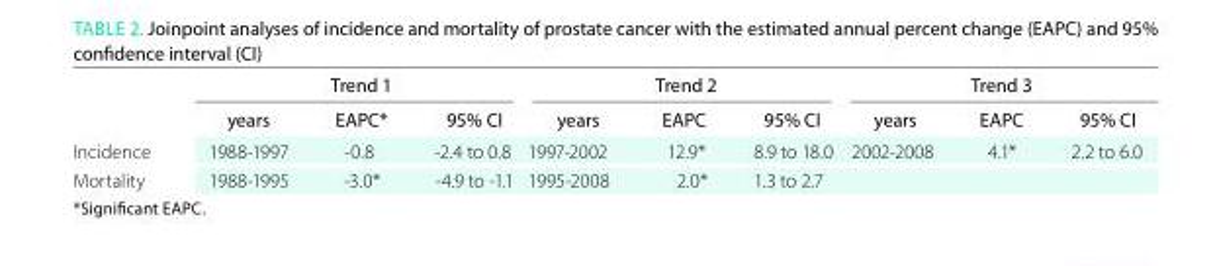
<table><thead><tr><td rowspan="2"></td><td colspan="3">Trend 1</td><td colspan="3">Trend 2</td><td colspan="3">Trend 3</td></tr><tr><td>years</td><td>eAPc*</td><td>95% cI</td><td>years</td><td>eAPc</td><td>95% cI</td><td>years</td><td>eAPc</td><td>95% cI</td></tr></thead><tbody><tr><td>Incidence</td><td>1988-1997</td><td>-0.8</td><td>-2.4 to 0.8</td><td>1997-2002</td><td>12.9*</td><td>8.9 to 18.0</td><td>2002-2008</td><td>4.1*</td><td>2.2 to 6.0</td></tr><tr><td>Mortality</td><td>1988-1995</td><td>-3.0*</td><td>-4.9 to -1.1</td><td>1995-2008</td><td>2.0*</td><td>1.3 to 2.7</td><td colspan="3"></td></tr></tbody></table>